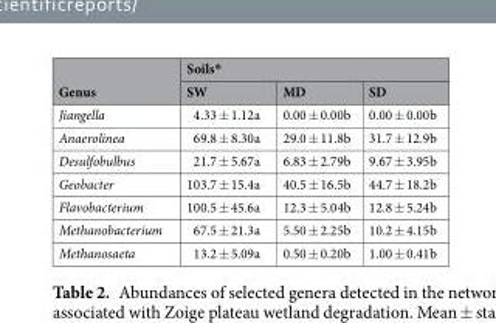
<table><thead><tr><td rowspan="2">Genus</td><td colspan="3">Soils*</td></tr><tr><td>SW</td><td>MD</td><td>SD</td></tr></thead><tbody><tr><td>Jiangella</td><td>4.33 ± 1.12a</td><td>0.00 ± 0.00b</td><td>0.00 ± 0.00b</td></tr><tr><td>Anaerolinea</td><td>69.8 ± 8.30a</td><td>29.0 ± 11.8b</td><td>31.7 ± 12.9b</td></tr><tr><td>Desulfobulbus</td><td>21.7 ± 5.67a</td><td>6.83 ± 2.79b</td><td>9.67 ± 3.95b</td></tr><tr><td>Geobacter</td><td>103.7 ± 15.4a</td><td>40.5 ± 16.5b</td><td>44.7 ± 18.2b</td></tr><tr><td>Flavobacterium</td><td>100.5 ± 45.6a</td><td>12.3 ± 5.04b</td><td>12.8 ± 5.24b</td></tr><tr><td>Methanobacterium</td><td>67.5 ± 21.3a</td><td>5.50 ± 2.25b</td><td>10.2 ± 4.15b</td></tr><tr><td>Methanosaeta</td><td>13.2 ± 5.09a</td><td>0.50 ± 0.20b</td><td>1.00 ± 0.41b</td></tr></tbody></table>